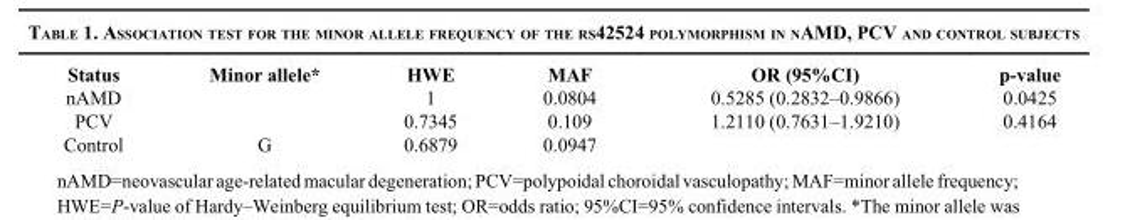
<table><thead><tr><td>Status</td><td>Minor allele*</td><td>HWE</td><td>MAF</td><td>OR (95%CI)</td><td>p-value</td></tr></thead><tbody><tr><td>nAMD</td><td></td><td>1</td><td>0.0804</td><td>0.5285 (0.2832–0.9866)</td><td>0.0425</td></tr><tr><td>PCV</td><td></td><td>0.7345</td><td>0.109</td><td>1.2110 (0.7631–1.9210)</td><td>0.4164</td></tr><tr><td>Control</td><td>G</td><td>0.6879</td><td>0.0947</td><td></td><td></td></tr></tbody></table>